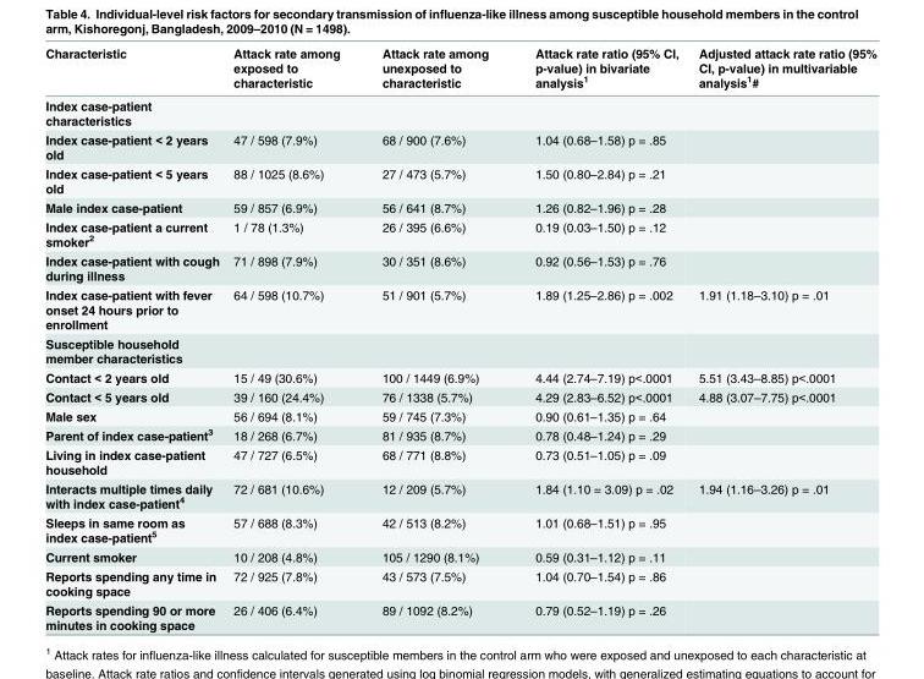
<table><thead><tr><td>Characteristic</td><td>Attack rate among exposed to characteristic</td><td>Attack rate among unexposed to characteristic</td><td>Attack rate ratio (95% CI, p-value) in bivariate analysis<sup>1</sup></td><td>Adjusted attack rate ratio (95% CI, p-value) in multivariable analysis<sup>1</sup>#</td></tr></thead><tbody><tr><td colspan="5">Index case-patient characteristics</td></tr><tr><td>Index case-patient &lt; 2 years old</td><td>47 / 598 (7.9%)</td><td>68 / 900 (7.6%)</td><td>1.04 (0.68–1.58) p = .85</td><td></td></tr><tr><td>Index case-patient &lt; 5 years old</td><td>88 / 1025 (8.6%)</td><td>27 / 473 (5.7%)</td><td>1.50 (0.80–2.84) p = .21</td><td></td></tr><tr><td>Male index case-patient</td><td>59 / 857 (6.9%)</td><td>56 / 641 (8.7%)</td><td>1.26 (0.82–1.96) p = .28</td><td></td></tr><tr><td>Index case-patient a current smoker<sup>2</sup></td><td>1 / 78 (1.3%)</td><td>26 / 395 (6.6%)</td><td>0.19 (0.03–1.50) p = .12</td><td></td></tr><tr><td>Index case-patient with cough during illness</td><td>71 / 898 (7.9%)</td><td>30 / 351 (8.6%)</td><td>0.92 (0.56–1.53) p = .76</td><td></td></tr><tr><td>Index case-patient with fever onset 24 hours prior to enrollment</td><td>64 / 598 (10.7%)</td><td>51 / 901 (5.7%)</td><td>1.89 (1.25–2.86) p = .002</td><td>1.91 (1.18–3.10) p = .01</td></tr><tr><td colspan="5">Susceptible household member characteristics</td></tr><tr><td>Contact &lt; 2 years old</td><td>15 / 49 (30.6%)</td><td>100 / 1449 (6.9%)</td><td>4.44 (2.74–7.19) p&lt;.0001</td><td>5.51 (3.43–8.85) p&lt;.0001</td></tr><tr><td>Contact &lt; 5 years old</td><td>39 / 160 (24.4%)</td><td>76 / 1338 (5.7%)</td><td>4.29 (2.83–6.52) p&lt;.0001</td><td>4.88 (3.07–7.75) p&lt;.0001</td></tr><tr><td>Male sex</td><td>56 / 694 (8.1%)</td><td>59 / 745 (7.3%)</td><td>0.90 (0.61–1.35) p = .64</td><td></td></tr><tr><td>Parent of index case-patient<sup>3</sup></td><td>18 / 268 (6.7%)</td><td>81 / 935 (8.7%)</td><td>0.78 (0.48–1.24) p = .29</td><td></td></tr><tr><td>Living in index case-patient household</td><td>47 / 727 (6.5%)</td><td>68 / 771 (8.8%)</td><td>0.73 (0.51–1.05) p = .09</td><td></td></tr><tr><td>Interacts multiple times daily with index case-patient<sup>4</sup></td><td>72 / 681 (10.6%)</td><td>12 / 209 (5.7%)</td><td>1.84 (1.10 = 3.09) p = .02</td><td>1.94 (1.16–3.26) p = .01</td></tr><tr><td>Sleeps in same room as index case-patient<sup>5</sup></td><td>57 / 688 (8.3%)</td><td>42 / 513 (8.2%)</td><td>1.01 (0.68–1.51) p = .95</td><td></td></tr><tr><td>Current smoker</td><td>10 / 208 (4.8%)</td><td>105 / 1290 (8.1%)</td><td>0.59 (0.31–1.12) p = .11</td><td></td></tr><tr><td>Reports spending any time in cooking space</td><td>72 / 925 (7.8%)</td><td>43 / 573 (7.5%)</td><td>1.04 (0.70–1.54) p = .86</td><td></td></tr><tr><td>Reports spending 90 or more minutes in cooking space</td><td>26 / 406 (6.4%)</td><td>89 / 1092 (8.2%)</td><td>0.79 (0.52–1.19) p = .26</td><td></td></tr></tbody></table>